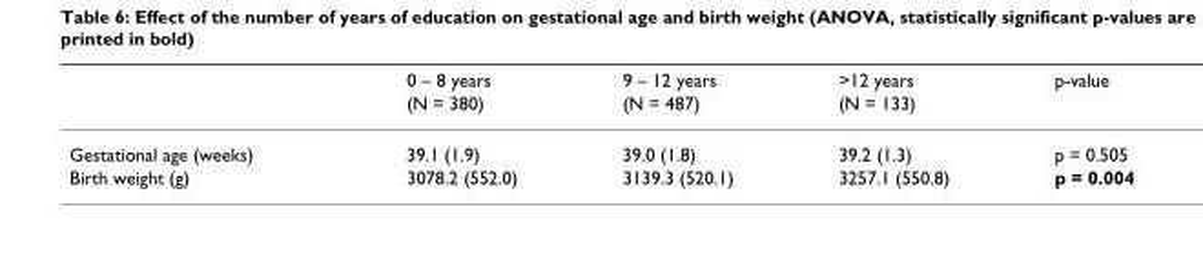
<table><thead><tr><td rowspan="2"></td><td rowspan="2">0 – 8 years (N = 380)</td><td rowspan="2">9 – 12 years (N = 487)</td><td rowspan="2">&gt;12 years (N = 133)</td><td rowspan="2">p-value</td></tr><tr></tr></thead><tbody><tr><td>Gestational age (weeks)</td><td>39.1 (1.9)</td><td>39.0 (1.8)</td><td>39.2 (1.3)</td><td>p = 0.505</td></tr><tr><td>Birth weight (g)</td><td>3078.2 (552.0)</td><td>3139.3 (520.1)</td><td>3257.1 (550.8)</td><td>p = 0.004</td></tr></tbody></table>